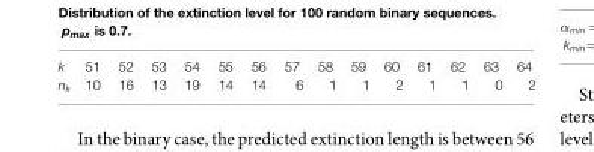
<table><tbody><tr><td>k</td><td>51</td><td>52</td><td>53</td><td>54</td><td>55</td><td>56</td><td>57</td><td>58</td><td>59</td><td>60</td><td>61</td><td>62</td><td>63</td><td>64</td></tr><tr><td>n<sub>k</sub></td><td>10</td><td>16</td><td>13</td><td>19</td><td>14</td><td>14</td><td>6</td><td>1</td><td>1</td><td>2</td><td>1</td><td>1</td><td>0</td><td>2</td></tr></tbody></table>